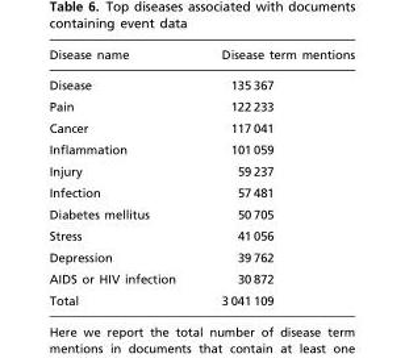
<table><thead><tr><td>Disease name</td><td>Disease term mentions</td></tr></thead><tbody><tr><td>Disease</td><td>135 367</td></tr><tr><td>Pain</td><td>122 233</td></tr><tr><td>Cancer</td><td>117 041</td></tr><tr><td>Inflammation</td><td>101 059</td></tr><tr><td>Injury</td><td>59 237</td></tr><tr><td>Infection</td><td>57 481</td></tr><tr><td>Diabetes mellitus</td><td>50 705</td></tr><tr><td>Stress</td><td>41 056</td></tr><tr><td>Depression</td><td>39 762</td></tr><tr><td>AIDS or HIV infection</td><td>30 872</td></tr><tr><td>Total</td><td>3 041 109</td></tr></tbody></table>